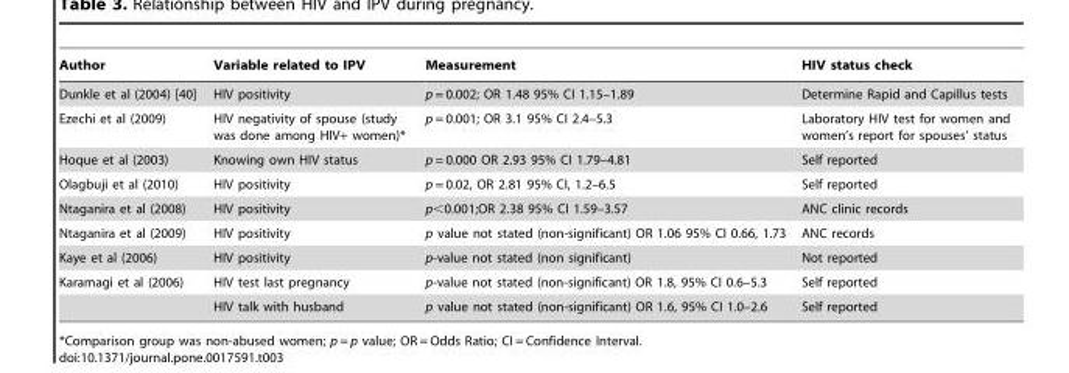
<table><thead><tr><td>Author</td><td>Variable related to IPV</td><td>Measurement</td><td>HIV status check</td></tr></thead><tbody><tr><td>Dunkle et al (2004) [40]</td><td>HIV positivity</td><td>p = 0.002; OR 1.48 95% CI 1.15–1.89</td><td>Determine Rapid and Capillus tests</td></tr><tr><td>Ezechi et al (2009)</td><td>HIV negativity of spouse (study was done among HIV+ women)*</td><td>p = 0.001; OR 3.1 95% CI 2.4–5.3</td><td>Laboratory HIV test for women and women’s report for spouses’ status</td></tr><tr><td>Hoque et al (2003)</td><td>Knowing own HIV status</td><td>p = 0.000 OR 2.93 95% CI 1.79–4.81</td><td>Self reported</td></tr><tr><td>Olagbuji et al (2010)</td><td>HIV positivity</td><td>p = 0.02, OR 2.81 95% CI, 1.2–6.5</td><td>Self reported</td></tr><tr><td>Ntaganira et al (2008)</td><td>HIV positivity</td><td>p&lt;0.001;OR 2.38 95% CI 1.59–3.57</td><td>ANC clinic records</td></tr><tr><td>Ntaganira et al (2009)</td><td>HIV positivity</td><td>p value not stated (non-significant) OR 1.06 95% CI 0.66, 1.73</td><td>ANC records</td></tr><tr><td>Kaye et al (2006)</td><td>HIV positivity</td><td>p-value not stated (non significant)</td><td>Not reported</td></tr><tr><td rowspan="2">Karamagi et al (2006)</td><td>HIV test last pregnancy</td><td>p-value not stated (non-significant) OR 1.8, 95% CI 0.6–5.3</td><td>Self reported</td></tr><tr><td>HIV talk with husband</td><td>p value not stated (non-significant) OR 1.6, 95% CI 1.0–2.6</td><td>Self reported</td></tr></tbody></table>